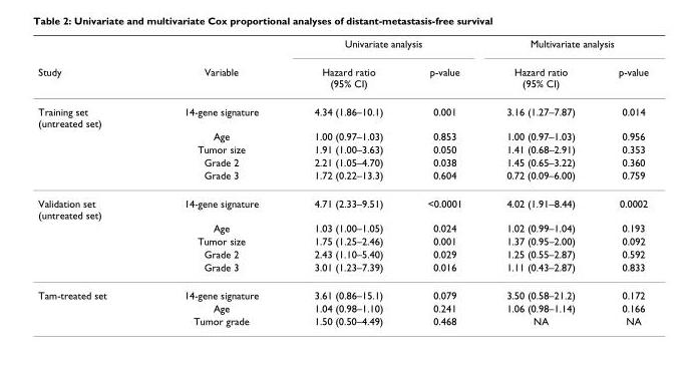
<table><thead><tr><td rowspan="2">Study</td><td rowspan="2">Variable</td><td colspan="2">Univariate analysis</td><td colspan="2">Multivariate analysis</td></tr><tr><td>Hazard ratio (95% CI)</td><td>p-value</td><td>Hazard ratio (95% CI)</td><td>p-value</td></tr></thead><tbody><tr><td rowspan="5">Training set (untreated set)</td><td>14-gene signature</td><td>4.34 (1.86–10.1)</td><td>0.001</td><td>3.16 (1.27–7.87)</td><td>0.014</td></tr><tr><td>Age</td><td>1.00 (0.97–1.03)</td><td>0.853</td><td>1.00 (0.97–1.03)</td><td>0.956</td></tr><tr><td>Tumor size</td><td>1.91 (1.00–3.63)</td><td>0.050</td><td>1.41 (0.68–2.91)</td><td>0.353</td></tr><tr><td>Grade 2</td><td>2.21 (1.05–4.70)</td><td>0.038</td><td>1.45 (0.65–3.22)</td><td>0.360</td></tr><tr><td>Grade 3</td><td>1.72 (0.22–13.3)</td><td>0.604</td><td>0.72 (0.09–6.00)</td><td>0.759</td></tr><tr><td rowspan="5">Validation set (untreated set)</td><td>14-gene signature</td><td>4.71 (2.33–9.51)</td><td>&lt;0.0001</td><td>4.02 (1.91–8.44)</td><td>0.0002</td></tr><tr><td>Age</td><td>1.03 (1.00–1.05)</td><td>0.024</td><td>1.02 (0.99–1.04)</td><td>0.193</td></tr><tr><td>Tumor size</td><td>1.75 (1.25–2.46)</td><td>0.001</td><td>1.37 (0.95–2.00)</td><td>0.092</td></tr><tr><td>Grade 2</td><td>2.43 (1.10–5.40)</td><td>0.029</td><td>1.25 (0.55–2.87)</td><td>0.592</td></tr><tr><td>Grade 3</td><td>3.01 (1.23–7.39)</td><td>0.016</td><td>1.11 (0.43–2.87)</td><td>0.833</td></tr><tr><td rowspan="3">Tam-treated set</td><td>14-gene signature</td><td>3.61 (0.86–15.1)</td><td>0.079</td><td>3.50 (0.58–21.2)</td><td>0.172</td></tr><tr><td>Age</td><td>1.04 (0.98–1.10)</td><td>0.241</td><td>1.06 (0.98–1.14)</td><td>0.166</td></tr><tr><td>Tumor grade</td><td>1.50 (0.50–4.49)</td><td>0.468</td><td>NA</td><td>NA</td></tr></tbody></table>